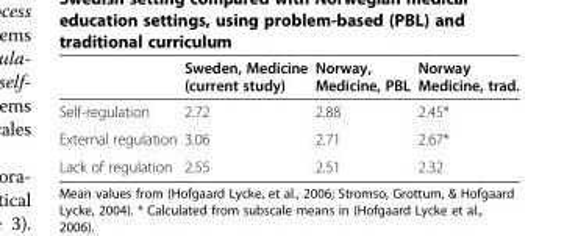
<table><thead><tr><td></td><td>Sweden, Medicine (current study)</td><td>Norway, Medicine, PBL</td><td>Norway Medicine, trad.</td></tr></thead><tbody><tr><td>Self-regulation</td><td>2.72</td><td>2.88</td><td>2.45*</td></tr><tr><td>External regulation</td><td>3.06</td><td>2.71</td><td>2.67*</td></tr><tr><td>Lack of regulation</td><td>2.55</td><td>2.51</td><td>2.32</td></tr></tbody></table>